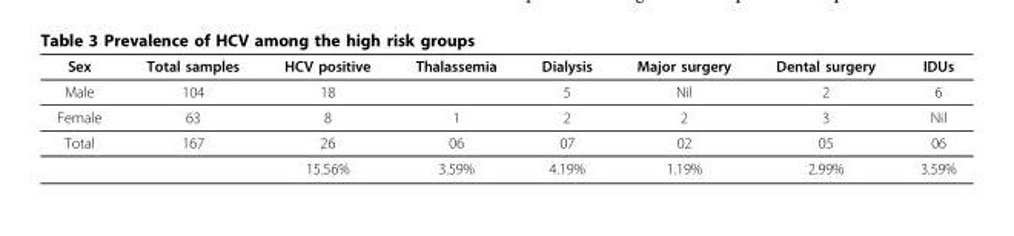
<table><thead><tr><td>Sex</td><td>Total samples</td><td>HCV positive</td><td>Thalassemia</td><td>Dialysis</td><td>Major surgery</td><td>Dental surgery</td><td>IDUs</td></tr></thead><tbody><tr><td>Male</td><td>104</td><td>18</td><td></td><td>5</td><td>Nil</td><td>2</td><td>6</td></tr><tr><td>Female</td><td>63</td><td>8</td><td>1</td><td>2</td><td>2</td><td>3</td><td>Nil</td></tr><tr><td rowspan="2">Total</td><td>167</td><td>26</td><td>06</td><td>07</td><td>02</td><td>05</td><td>06</td></tr><tr><td></td><td>15.56%</td><td>3.59%</td><td>4.19%</td><td>1.19%</td><td>2.99%</td><td>3.59%</td></tr></tbody></table>